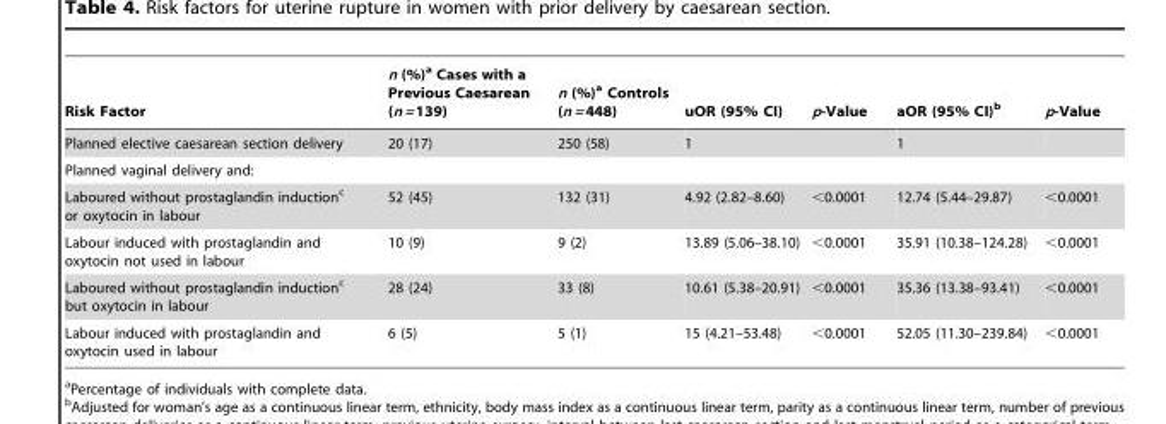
<table><thead><tr><td>Risk Factor</td><td>n (%)<sup>a</sup> Cases with a Previous Caesarean (n = 139)</td><td>n (%)<sup>a</sup> Controls (n = 448)</td><td>uOR (95% CI)</td><td>p-Value</td><td>aOR (95% CI)<sup>b</sup></td><td>p-Value</td></tr></thead><tbody><tr><td>Planned elective caesarean section delivery</td><td>20 (17)</td><td>250 (58)</td><td>1</td><td></td><td>1</td><td></td></tr><tr><td colspan="7">Planned vaginal delivery and:</td></tr><tr><td>Laboured without prostaglandin induction<sup>c</sup> or oxytocin in labour</td><td>52 (45)</td><td>132 (31)</td><td>4.92 (2.82–8.60)</td><td>&lt;0.0001</td><td>12.74 (5.44–29.87)</td><td>&lt;0.0001</td></tr><tr><td>Labour induced with prostaglandin and oxytocin not used in labour</td><td>10 (9)</td><td>9 (2)</td><td>13.89 (5.06–38.10)</td><td>&lt;0.0001</td><td>35.91 (10.38–124.28)</td><td>&lt;0.0001</td></tr><tr><td>Laboured without prostaglandin induction<sup>c</sup> but oxytocin in labour</td><td>28 (24)</td><td>33 (8)</td><td>10.61 (5.38–20.91)</td><td>&lt;0.0001</td><td>35.36 (13.38–93.41)</td><td>&lt;0.0001</td></tr><tr><td>Labour induced with prostaglandin and oxytocin used in labour</td><td>6 (5)</td><td>5 (1)</td><td>15 (4.21–53.48)</td><td>&lt;0.0001</td><td>52.05 (11.30–239.84)</td><td>&lt;0.0001</td></tr></tbody></table>